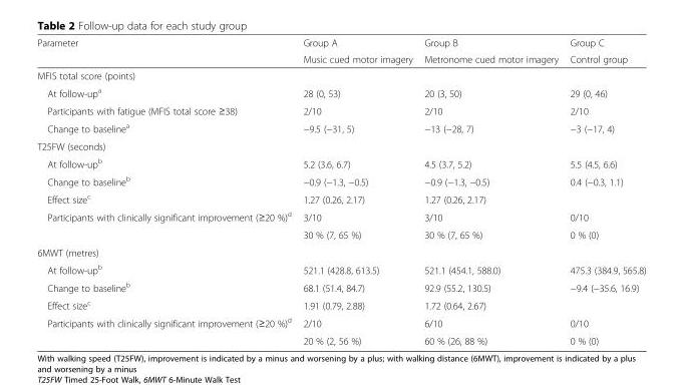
<table><thead><tr><td rowspan="2">Parameter</td><td rowspan="2">Group A Music cued motor imagery</td><td rowspan="2">Group B Metronome cued motor imagery</td><td rowspan="2">Group C Control group</td></tr><tr></tr></thead><tbody><tr><td colspan="4">MFIS total score (points)</td></tr><tr><td>At follow-up<sup>a</sup></td><td>28 (0, 53)</td><td>20 (3, 50)</td><td>29 (0, 46)</td></tr><tr><td>Participants with fatigue (MFIS total score ≥38)</td><td>2/10</td><td>2/10</td><td>2/10</td></tr><tr><td>Change to baseline<sup>a</sup></td><td>−9.5 (−31, 5)</td><td>−13 (−28, 7)</td><td>−3 (−17, 4)</td></tr><tr><td colspan="4">T25FW (seconds)</td></tr><tr><td>At follow-up<sup>b</sup></td><td>5.2 (3.6, 6.7)</td><td>4.5 (3.7, 5.2)</td><td>5.5 (4.5, 6.6)</td></tr><tr><td>Change to baseline<sup>b</sup></td><td>−0.9 (−1.3, −0.5)</td><td>−0.9 (−1.3, −0.5)</td><td>0.4 (−0.3, 1.1)</td></tr><tr><td>Effect size<sup>c</sup></td><td>1.27 (0.26, 2.17)</td><td>1.27 (0.26, 2.17)</td><td></td></tr><tr><td rowspan="2">Participants with clinically significant improvement (≥20 %)<sup>d</sup></td><td>3/10</td><td>3/10</td><td>0/10</td></tr><tr><td>30 % (7, 65 %)</td><td>30 % (7, 65 %)</td><td>0 % (0)</td></tr><tr><td colspan="4">6MWT (metres)</td></tr><tr><td>At follow-up<sup>b</sup></td><td>521.1 (428.8, 613.5)</td><td>521.1 (454.1, 588.0)</td><td>475.3 (384.9, 565.8)</td></tr><tr><td>Change to baseline<sup>b</sup></td><td>68.1 (51.4, 84.7)</td><td>92.9 (55.2, 130.5)</td><td>−9.4 (−35.6, 16.9)</td></tr><tr><td>Effect size<sup>c</sup></td><td>1.91 (0.79, 2.88)</td><td>1.72 (0.64, 2.67)</td><td></td></tr><tr><td rowspan="2">Participants with clinically significant improvement (≥20 %)<sup>d</sup></td><td>2/10</td><td>6/10</td><td>0/10</td></tr><tr><td>20 % (2, 56 %)</td><td>60 % (26, 88 %)</td><td>0 % (0)</td></tr></tbody></table>